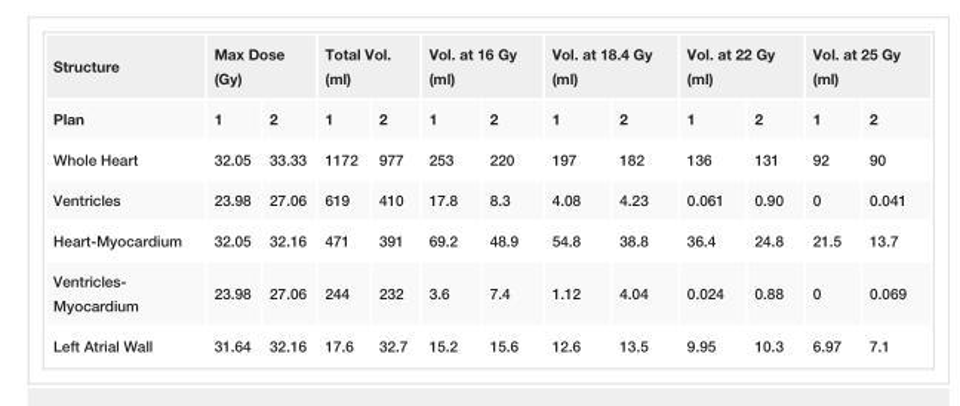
<table><tbody><tr><td>Structure</td><td colspan="2">Max Dose (Gy)</td><td colspan="2">Total Vol. (ml)</td><td colspan="2">Vol. at 16 Gy (ml)</td><td colspan="2">Vol. at 18.4 Gy (ml)</td><td colspan="2">Vol. at 22 Gy (ml)</td><td colspan="2">Vol. at 25 Gy (ml)</td></tr><tr><td>Plan</td><td>1</td><td>2</td><td>1</td><td>2</td><td>1</td><td>2</td><td>1</td><td>2</td><td>1</td><td>2</td><td>1</td><td>2</td></tr><tr><td>Whole Heart</td><td>32.05</td><td>33.33</td><td>1172</td><td>977</td><td>253</td><td>220</td><td>197</td><td>182</td><td>136</td><td>131</td><td>92</td><td>90</td></tr><tr><td>Ventricles</td><td>23.98</td><td>27.06</td><td>619</td><td>410</td><td>17.8</td><td>8.3</td><td>4.08</td><td>4.23</td><td>0.061</td><td>0.90</td><td>0</td><td>0.041</td></tr><tr><td>Heart-Myocardium</td><td>32.05</td><td>32.16</td><td>471</td><td>391</td><td>69.2</td><td>48.9</td><td>54.8</td><td>38.8</td><td>36.4</td><td>24.8</td><td>21.5</td><td>13.7</td></tr><tr><td>Ventricles- Myocardium</td><td>23.98</td><td>27.06</td><td>244</td><td>232</td><td>3.6</td><td>7.4</td><td>1.12</td><td>4.04</td><td>0.024</td><td>0.88</td><td>0</td><td>0.069</td></tr><tr><td>Left Atrial Wall</td><td>31.64</td><td>32.16</td><td>17.6</td><td>32.7</td><td>15.2</td><td>15.6</td><td>12.6</td><td>13.5</td><td>9.95</td><td>10.3</td><td>6.97</td><td>7.1</td></tr></tbody></table>